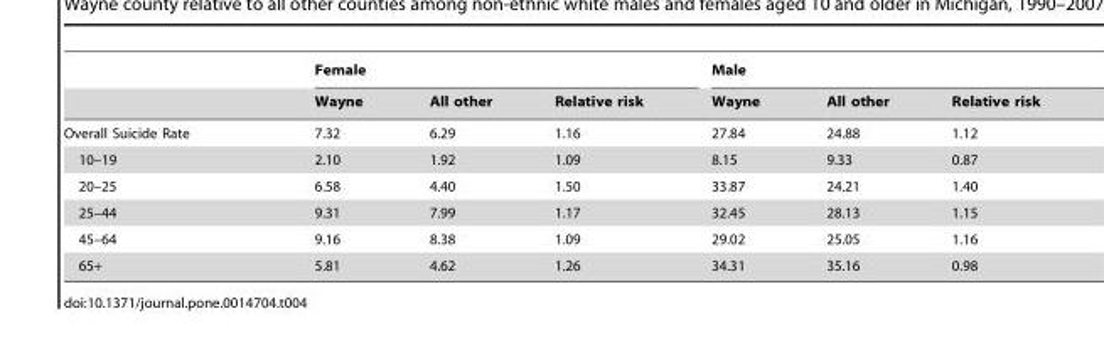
<table><thead><tr><td rowspan="2"></td><td colspan="3">Female</td><td colspan="3">Male</td></tr><tr><td>Wayne</td><td>All other</td><td>Relative risk</td><td>Wayne</td><td>All other</td><td>Relative risk</td></tr></thead><tbody><tr><td>Overall Suicide Rate</td><td>7.32</td><td>6.29</td><td>1.16</td><td>27.84</td><td>24.88</td><td>1.12</td></tr><tr><td>10–19</td><td>2.10</td><td>1.92</td><td>1.09</td><td>8.15</td><td>9.33</td><td>0.87</td></tr><tr><td>20–25</td><td>6.58</td><td>4.40</td><td>1.50</td><td>33.87</td><td>24.21</td><td>1.40</td></tr><tr><td>25–44</td><td>9.31</td><td>7.99</td><td>1.17</td><td>32.45</td><td>28.13</td><td>1.15</td></tr><tr><td>45–64</td><td>9.16</td><td>8.38</td><td>1.09</td><td>29.02</td><td>25.05</td><td>1.16</td></tr><tr><td>65+</td><td>5.81</td><td>4.62</td><td>1.26</td><td>34.31</td><td>35.16</td><td>0.98</td></tr></tbody></table>